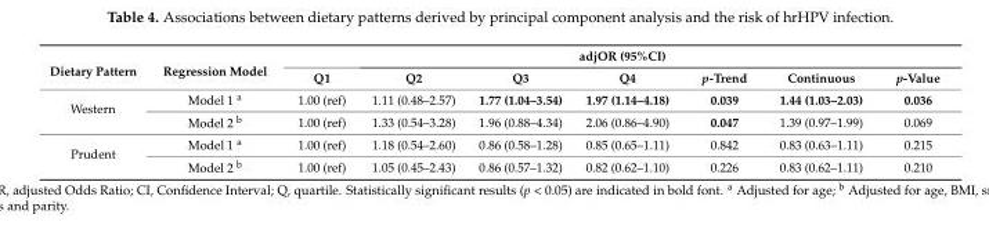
<table><thead><tr><td rowspan="2">Dietary Pattern</td><td rowspan="2">Regression Model</td><td colspan="7">adjOR (95%CI)</td></tr><tr><td>Q1</td><td>Q2</td><td>Q3</td><td>Q4</td><td>p-Trend</td><td>Continuous</td><td>p-Value</td></tr></thead><tbody><tr><td rowspan="2">Western</td><td>Model 1 <sup>a</sup></td><td>1.00 (ref)</td><td>1.11 (0.48–2.57)</td><td>1.77 (1.04–3.54)</td><td>1.97 (1.14–4.18)</td><td>0.039</td><td>1.44 (1.03–2.03)</td><td>0.036</td></tr><tr><td>Model 2 <sup>b</sup></td><td>1.00 (ref)</td><td>1.33 (0.54–3.28)</td><td>1.96 (0.88–4.34)</td><td>2.06 (0.86–4.90)</td><td>0.047</td><td>1.39 (0.97–1.99)</td><td>0.069</td></tr><tr><td rowspan="2">Prudent</td><td>Model 1 <sup>a</sup></td><td>1.00 (ref)</td><td>1.18 (0.54–2.60)</td><td>0.86 (0.58–1.28)</td><td>0.85 (0.65–1.11)</td><td>0.842</td><td>0.83 (0.63–1.11)</td><td>0.215</td></tr><tr><td>Model 2 <sup>b</sup></td><td>1.00 (ref)</td><td>1.05 (0.45–2.43)</td><td>0.86 (0.57–1.32)</td><td>0.82 (0.62–1.10)</td><td>0.226</td><td>0.83 (0.62–1.11)</td><td>0.210</td></tr></tbody></table>